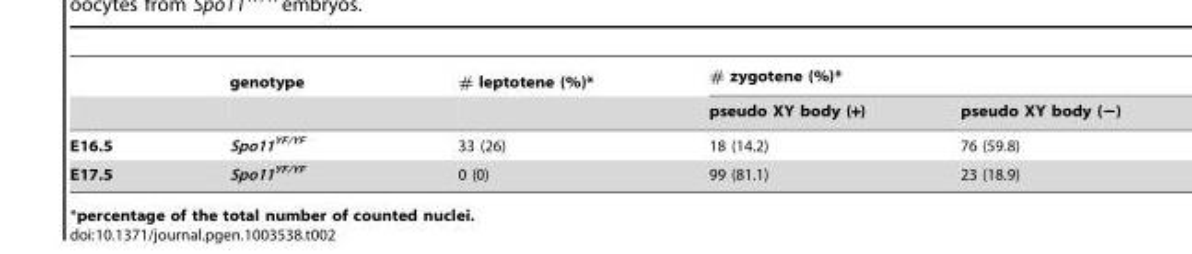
<table><thead><tr><td rowspan="2"></td><td rowspan="2">genotype</td><td rowspan="2"># leptotene (%)*</td><td colspan="2"># zygotene (%)*</td></tr><tr><td>pseudo XY body (+)</td><td>pseudo XY body (−)</td></tr></thead><tbody><tr><td>E16.5</td><td>Spo11<sup>YF/YF</sup></td><td>33 (26)</td><td>18 (14.2)</td><td>76 (59.8)</td></tr><tr><td>E17.5</td><td>Spo11<sup>YF/YF</sup></td><td>0 (0)</td><td>99 (81.1)</td><td>23 (18.9)</td></tr></tbody></table>